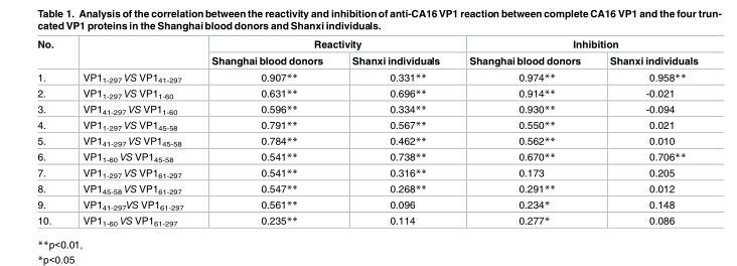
<table><thead><tr><td rowspan="2">No.</td><td rowspan="2"></td><td colspan="2">Reactivity</td><td colspan="2">Inhibition</td></tr><tr><td>Shanghai blood donors</td><td>Shanxi individuals</td><td>Shanghai blood donors</td><td>Shanxi individuals</td></tr></thead><tbody><tr><td>1.</td><td>VP1<sub>1-297</sub> VS VP1<sub>41-297</sub></td><td>0.907**</td><td>0.331**</td><td>0.974**</td><td>0.958**</td></tr><tr><td>2.</td><td>VP1<sub>1-297</sub> VS VP1<sub>1-60</sub></td><td>0.631**</td><td>0.696**</td><td>0.914**</td><td>-0.021</td></tr><tr><td>3.</td><td>VP1<sub>41-297</sub> VS VP1<sub>1-60</sub></td><td>0.596**</td><td>0.334**</td><td>0.930**</td><td>-0.094</td></tr><tr><td>4.</td><td>VP1<sub>1-297</sub> VS VP1<sub>45-58</sub></td><td>0.791**</td><td>0.567**</td><td>0.550**</td><td>0.021</td></tr><tr><td>5.</td><td>VP1<sub>41-297</sub> VS VP1<sub>45-58</sub></td><td>0.784**</td><td>0.462**</td><td>0.562**</td><td>0.010</td></tr><tr><td>6.</td><td>VP1<sub>1-60</sub> VS VP1<sub>45-58</sub></td><td>0.541**</td><td>0.738**</td><td>0.670**</td><td>0.706**</td></tr><tr><td>7.</td><td>VP1<sub>1-297</sub> VS VP1<sub>61-297</sub></td><td>0.541**</td><td>0.316**</td><td>0.173</td><td>0.205</td></tr><tr><td>8.</td><td>VP1<sub>45-58</sub> VS VP1<sub>61-297</sub></td><td>0.547**</td><td>0.268**</td><td>0.291**</td><td>0.012</td></tr><tr><td>9.</td><td>VP1<sub>41-297</sub>VS VP1<sub>61-297</sub></td><td>0.561**</td><td>0.096</td><td>0.234*</td><td>0.148</td></tr><tr><td>10.</td><td>VP1<sub>1-60</sub> VS VP1<sub>61-297</sub></td><td>0.235**</td><td>0.114</td><td>0.277*</td><td>0.086</td></tr></tbody></table>